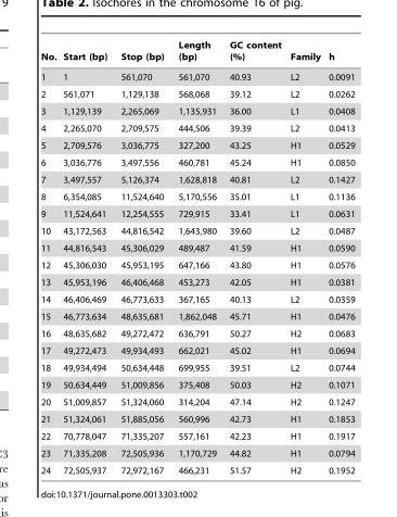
<table><thead><tr><td>No.</td><td>Start (bp)</td><td>Stop (bp)</td><td>Length (bp)</td><td>GC content (%)</td><td>Family</td><td>h</td></tr></thead><tbody><tr><td>1</td><td>1</td><td>561,070</td><td>561,070</td><td>40.93</td><td>L2</td><td>0.0091</td></tr><tr><td>2</td><td>561,071</td><td>1,129,138</td><td>568,068</td><td>39.12</td><td>L2</td><td>0.0262</td></tr><tr><td>3</td><td>1,129,139</td><td>2,265,069</td><td>1,135,931</td><td>36.00</td><td>L1</td><td>0.0408</td></tr><tr><td>4</td><td>2,265,070</td><td>2,709,575</td><td>444,506</td><td>39.39</td><td>L2</td><td>0.0413</td></tr><tr><td>5</td><td>2,709,576</td><td>3,036,775</td><td>327,200</td><td>43.25</td><td>H1</td><td>0.0529</td></tr><tr><td>6</td><td>3,036,776</td><td>3,497,556</td><td>460,781</td><td>45.24</td><td>H1</td><td>0.0850</td></tr><tr><td>7</td><td>3,497,557</td><td>5,126,374</td><td>1,628,818</td><td>40.81</td><td>L2</td><td>0.1427</td></tr><tr><td>8</td><td>6,354,085</td><td>11,524,640</td><td>5,170,556</td><td>35.01</td><td>L1</td><td>0.1136</td></tr><tr><td>9</td><td>11,524,641</td><td>12,254,555</td><td>729,915</td><td>33.41</td><td>L1</td><td>0.0631</td></tr><tr><td>10</td><td>43,172,563</td><td>44,816,542</td><td>1,643,980</td><td>39.60</td><td>L2</td><td>0.0487</td></tr><tr><td>11</td><td>44,816,543</td><td>45,306,029</td><td>489,487</td><td>41.59</td><td>H1</td><td>0.0590</td></tr><tr><td>12</td><td>45,306,030</td><td>45,953,195</td><td>647,166</td><td>43.80</td><td>H1</td><td>0.0576</td></tr><tr><td>13</td><td>45,953,196</td><td>46,406,468</td><td>453,273</td><td>42.05</td><td>H1</td><td>0.0381</td></tr><tr><td>14</td><td>46,406,469</td><td>46,773,633</td><td>367,165</td><td>40.13</td><td>L2</td><td>0.0359</td></tr><tr><td>15</td><td>46,773,634</td><td>48,635,681</td><td>1,862,048</td><td>45.71</td><td>H1</td><td>0.0476</td></tr><tr><td>16</td><td>48,635,682</td><td>49,272,472</td><td>636,791</td><td>50.27</td><td>H2</td><td>0.0683</td></tr><tr><td>17</td><td>49,272,473</td><td>49,934,493</td><td>662,021</td><td>45.02</td><td>H1</td><td>0.0694</td></tr><tr><td>18</td><td>49,934,494</td><td>50,634,448</td><td>699,955</td><td>39.51</td><td>L2</td><td>0.0744</td></tr><tr><td>19</td><td>50,634,449</td><td>51,009,856</td><td>375,408</td><td>50.03</td><td>H2</td><td>0.1071</td></tr><tr><td>20</td><td>51,009,857</td><td>51,324,060</td><td>314,204</td><td>47.14</td><td>H2</td><td>0.1247</td></tr><tr><td>21</td><td>51,324,061</td><td>51,885,056</td><td>560,996</td><td>42.73</td><td>H1</td><td>0.1853</td></tr><tr><td>22</td><td>70,778,047</td><td>71,335,207</td><td>557,161</td><td>42.23</td><td>H1</td><td>0.1917</td></tr><tr><td>23</td><td>71,335,208</td><td>72,505,936</td><td>1,170,729</td><td>44.82</td><td>H1</td><td>0.0794</td></tr><tr><td>24</td><td>72,505,937</td><td>72,972,167</td><td>466,231</td><td>51.57</td><td>H2</td><td>0.1952</td></tr></tbody></table>